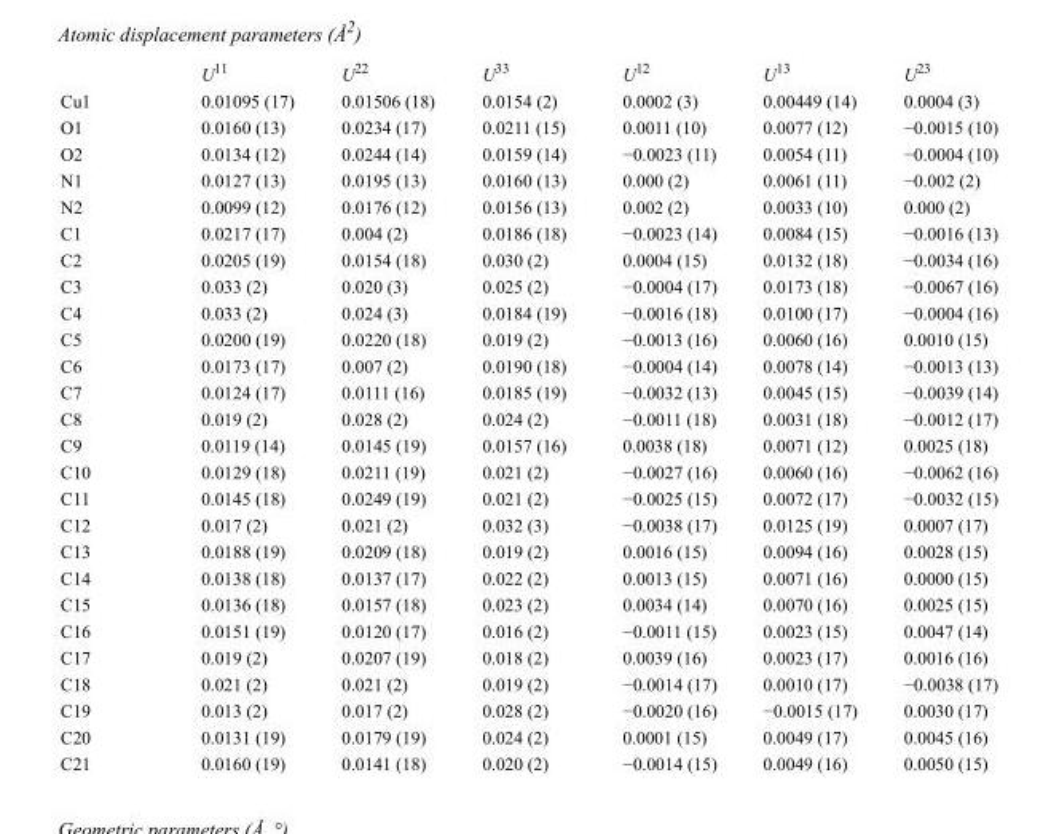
<table><thead><tr><td></td><td>U<sup>11</sup></td><td>U<sup>22</sup></td><td>U<sup>33</sup></td><td>U<sup>12</sup></td><td>U<sup>13</sup></td><td>U<sup>23</sup></td></tr></thead><tbody><tr><td>Cu1</td><td>0.01095 (17)</td><td>0.01506 (18)</td><td>0.0154 (2)</td><td>0.0002 (3)</td><td>0.00449 (14)</td><td>0.0004 (3)</td></tr><tr><td>O1</td><td>0.0160 (13)</td><td>0.0234 (17)</td><td>0.0211 (15)</td><td>0.0011 (10)</td><td>0.0077 (12)</td><td>−0.0015 (10)</td></tr><tr><td>O2</td><td>0.0134 (12)</td><td>0.0244 (14)</td><td>0.0159 (14)</td><td>−0.0023 (11)</td><td>0.0054 (11)</td><td>−0.0004 (10)</td></tr><tr><td>N1</td><td>0.0127 (13)</td><td>0.0195 (13)</td><td>0.0160 (13)</td><td>0.000 (2)</td><td>0.0061 (11)</td><td>−0.002 (2)</td></tr><tr><td>N2</td><td>0.0099 (12)</td><td>0.0176 (12)</td><td>0.0156 (13)</td><td>0.002 (2)</td><td>0.0033 (10)</td><td>0.000 (2)</td></tr><tr><td>C1</td><td>0.0217 (17)</td><td>0.004 (2)</td><td>0.0186 (18)</td><td>−0.0023 (14)</td><td>0.0084 (15)</td><td>−0.0016 (13)</td></tr><tr><td>C2</td><td>0.0205 (19)</td><td>0.0154 (18)</td><td>0.030 (2)</td><td>0.0004 (15)</td><td>0.0132 (18)</td><td>−0.0034 (16)</td></tr><tr><td>C3</td><td>0.033 (2)</td><td>0.020 (3)</td><td>0.025 (2)</td><td>−0.0004 (17)</td><td>0.0173 (18)</td><td>−0.0067 (16)</td></tr><tr><td>C4</td><td>0.033 (2)</td><td>0.024 (3)</td><td>0.0184 (19)</td><td>−0.0016 (18)</td><td>0.0100 (17)</td><td>−0.0004 (16)</td></tr><tr><td>C5</td><td>0.0200 (19)</td><td>0.0220 (18)</td><td>0.019 (2)</td><td>−0.0013 (16)</td><td>0.0060 (16)</td><td>0.0010 (15)</td></tr><tr><td>C6</td><td>0.0173 (17)</td><td>0.007 (2)</td><td>0.0190 (18)</td><td>−0.0004 (14)</td><td>0.0078 (14)</td><td>−0.0013 (13)</td></tr><tr><td>C7</td><td>0.0124 (17)</td><td>0.0111 (16)</td><td>0.0185 (19)</td><td>−0.0032 (13)</td><td>0.0045 (15)</td><td>−0.0039 (14)</td></tr><tr><td>C8</td><td>0.019 (2)</td><td>0.028 (2)</td><td>0.024 (2)</td><td>−0.0011 (18)</td><td>0.0031 (18)</td><td>−0.0012 (17)</td></tr><tr><td>C9</td><td>0.0119 (14)</td><td>0.0145 (19)</td><td>0.0157 (16)</td><td>0.0038 (18)</td><td>0.0071 (12)</td><td>0.0025 (18)</td></tr><tr><td>C10</td><td>0.0129 (18)</td><td>0.0211 (19)</td><td>0.021 (2)</td><td>−0.0027 (16)</td><td>0.0060 (16)</td><td>−0.0062 (16)</td></tr><tr><td>C11</td><td>0.0145 (18)</td><td>0.0249 (19)</td><td>0.021 (2)</td><td>−0.0025 (15)</td><td>0.0072 (17)</td><td>−0.0032 (15)</td></tr><tr><td>C12</td><td>0.017 (2)</td><td>0.021 (2)</td><td>0.032 (3)</td><td>−0.0038 (17)</td><td>0.0125 (19)</td><td>0.0007 (17)</td></tr><tr><td>C13</td><td>0.0188 (19)</td><td>0.0209 (18)</td><td>0.019 (2)</td><td>0.0016 (15)</td><td>0.0094 (16)</td><td>0.0028 (15)</td></tr><tr><td>C14</td><td>0.0138 (18)</td><td>0.0137 (17)</td><td>0.022 (2)</td><td>0.0013 (15)</td><td>0.0071 (16)</td><td>0.0000 (15)</td></tr><tr><td>C15</td><td>0.0136 (18)</td><td>0.0157 (18)</td><td>0.023 (2)</td><td>0.0034 (14)</td><td>0.0070 (16)</td><td>0.0025 (15)</td></tr><tr><td>C16</td><td>0.0151 (19)</td><td>0.0120 (17)</td><td>0.016 (2)</td><td>−0.0011 (15)</td><td>0.0023 (15)</td><td>0.0047 (14)</td></tr><tr><td>C17</td><td>0.019 (2)</td><td>0.0207 (19)</td><td>0.018 (2)</td><td>0.0039 (16)</td><td>0.0023 (17)</td><td>0.0016 (16)</td></tr><tr><td>C18</td><td>0.021 (2)</td><td>0.021 (2)</td><td>0.019 (2)</td><td>−0.0014 (17)</td><td>0.0010 (17)</td><td>−0.0038 (17)</td></tr><tr><td>C19</td><td>0.013 (2)</td><td>0.017 (2)</td><td>0.028 (2)</td><td>−0.0020 (16)</td><td>−0.0015 (17)</td><td>0.0030 (17)</td></tr><tr><td>C20</td><td>0.0131 (19)</td><td>0.0179 (19)</td><td>0.024 (2)</td><td>0.0001 (15)</td><td>0.0049 (17)</td><td>0.0045 (16)</td></tr><tr><td>C21</td><td>0.0160 (19)</td><td>0.0141 (18)</td><td>0.020 (2)</td><td>−0.0014 (15)</td><td>0.0049 (16)</td><td>0.0050 (15)</td></tr></tbody></table>